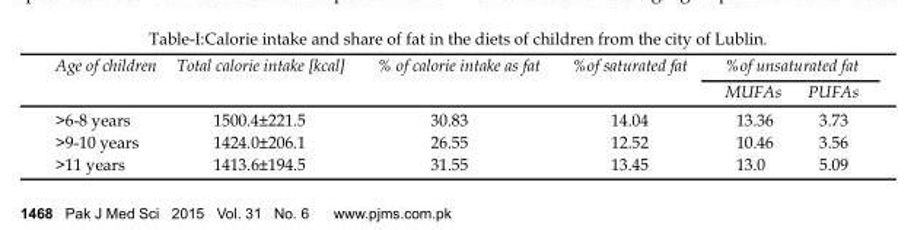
<table><thead><tr><td rowspan="2">Age of children</td><td rowspan="2">Total calorie intake [kcal]</td><td rowspan="2">% of calorie intake as fat</td><td rowspan="2">%of saturated fat</td><td colspan="2">%of unsaturated fat</td></tr><tr><td>MUFAs</td><td>PUFAs</td></tr></thead><tbody><tr><td>&gt;6-8 years</td><td>1500.4±221.5</td><td>30.83</td><td>14.04</td><td>13.36</td><td>3.73</td></tr><tr><td>&gt;9-10 years</td><td>1424.0±206.1</td><td>26.55</td><td>12.52</td><td>10.46</td><td>3.56</td></tr><tr><td>&gt;11 years</td><td>1413.6±194.5</td><td>31.55</td><td>13.45</td><td>13.0</td><td>5.09</td></tr></tbody></table>